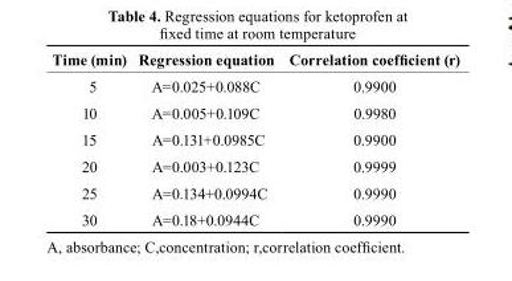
<table><thead><tr><td>Time (min)</td><td>regression equation</td><td>Correlation coefficient (r)</td></tr></thead><tbody><tr><td>5</td><td>A=0.025+0.088C</td><td>0.9900</td></tr><tr><td>10</td><td>A=0.005+0.109C</td><td>0.9980</td></tr><tr><td>15</td><td>A=0.131+0.0985C</td><td>0.9900</td></tr><tr><td>20</td><td>A=0.003+0.123C</td><td>0.9999</td></tr><tr><td>25</td><td>A=0.134+0.0994C</td><td>0.9990</td></tr><tr><td>30</td><td>A=0.18+0.0944C</td><td>0.9990</td></tr></tbody></table>